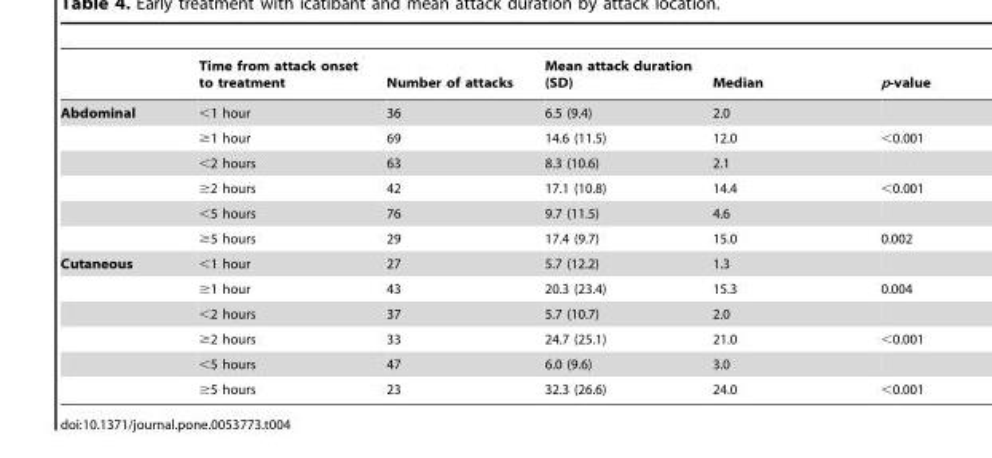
<table><thead><tr><td></td><td>Time from attack onset to treatment</td><td>Number of attacks</td><td>Mean attack duration (SD)</td><td>Median</td><td>p-value</td></tr></thead><tbody><tr><td rowspan="6">Abdominal</td><td>&lt;1 hour</td><td>36</td><td>6.5 (9.4)</td><td>2.0</td><td></td></tr><tr><td>≥1 hour</td><td>69</td><td>14.6 (11.5)</td><td>12.0</td><td>&lt;0.001</td></tr><tr><td>&lt;2 hours</td><td>63</td><td>8.3 (10.6)</td><td>2.1</td><td></td></tr><tr><td>≥2 hours</td><td>42</td><td>17.1 (10.8)</td><td>14.4</td><td>&lt;0.001</td></tr><tr><td>&lt;5 hours</td><td>76</td><td>9.7 (11.5)</td><td>4.6</td><td></td></tr><tr><td>≥5 hours</td><td>29</td><td>17.4 (9.7)</td><td>15.0</td><td>0.002</td></tr><tr><td rowspan="6">Cutaneous</td><td>&lt;1 hour</td><td>27</td><td>5.7 (12.2)</td><td>1.3</td><td></td></tr><tr><td>≥1 hour</td><td>43</td><td>20.3 (23.4)</td><td>15.3</td><td>0.004</td></tr><tr><td>&lt;2 hours</td><td>37</td><td>5.7 (10.7)</td><td>2.0</td><td></td></tr><tr><td>≥2 hours</td><td>33</td><td>24.7 (25.1)</td><td>21.0</td><td>&lt;0.001</td></tr><tr><td>&lt;5 hours</td><td>47</td><td>6.0 (9.6)</td><td>3.0</td><td></td></tr><tr><td>≥5 hours</td><td>23</td><td>32.3 (26.6)</td><td>24.0</td><td>&lt;0.001</td></tr></tbody></table>